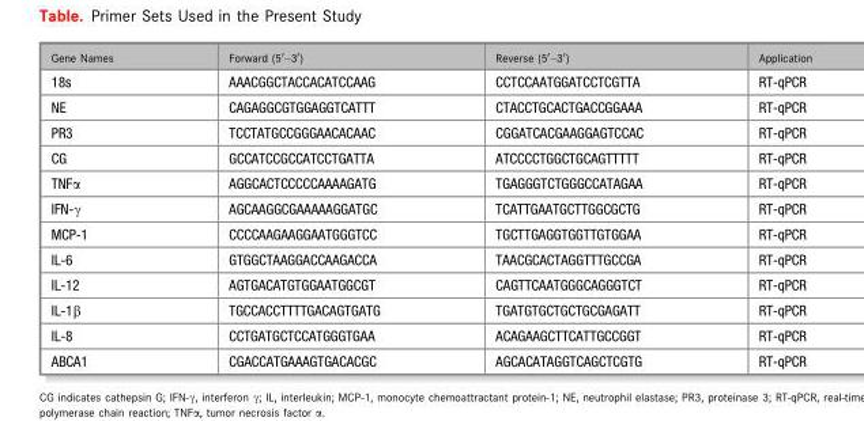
<table><thead><tr><td>Gene Names</td><td>Forward (5′–3′)</td><td>Reverse (5′–3′)</td><td>Application</td></tr></thead><tbody><tr><td>18s</td><td>AAACGGCTACCACATCCAAG</td><td>CCTCCAATGGATCCTCGTTA</td><td>RT-qPCR</td></tr><tr><td>NE</td><td>CAGAGGCGTGGAGGTCATTT</td><td>CTACCTGCACTGACCGGAAA</td><td>RT-qPCR</td></tr><tr><td>PR3</td><td>TCCTATGCCGGGAACACAAC</td><td>CGGATCACGAAGGAGTCCAC</td><td>RT-qPCR</td></tr><tr><td>CG</td><td>GCCATCCGCCATCCTGATTA</td><td>ATCCCCTGGCTGCAGTTTTT</td><td>RT-qPCR</td></tr><tr><td>TNFα</td><td>AGGCACTCCCCCAAAAGATG</td><td>TGAGGGTCTGGGCCATAGAA</td><td>RT-qPCR</td></tr><tr><td>IFN-γ</td><td>AGCAAGGCGAAAAAGGATGC</td><td>TCATTGAATGCTTGGCGCTG</td><td>RT-qPCR</td></tr><tr><td>MCP-1</td><td>CCCCAAGAAGGAATGGGTCC</td><td>TGCTTGAGGTGGTTGTGGAA</td><td>RT-qPCR</td></tr><tr><td>IL-6</td><td>GTGGCTAAGGACCAAGACCA</td><td>TAACGCACTAGGTTTGCCGA</td><td>RT-qPCR</td></tr><tr><td>IL-12</td><td>AGTGACATGTGGAATGGCGT</td><td>CAGTTCAATGGGCAGGGTCT</td><td>RT-qPCR</td></tr><tr><td>IL-1β</td><td>TGCCACCTTTTGACAGTGATG</td><td>TGATGTGCTGCTGCGAGATT</td><td>RT-qPCR</td></tr><tr><td>IL-8</td><td>CCTGATGCTCCATGGGTGAA</td><td>ACAGAAGCTTCATTGCCGGT</td><td>RT-qPCR</td></tr><tr><td>ABCA1</td><td>CGACCATGAAAGTGACACGC</td><td>AGCACATAGGTCAGCTCGTG</td><td>RT-qPCR</td></tr></tbody></table>